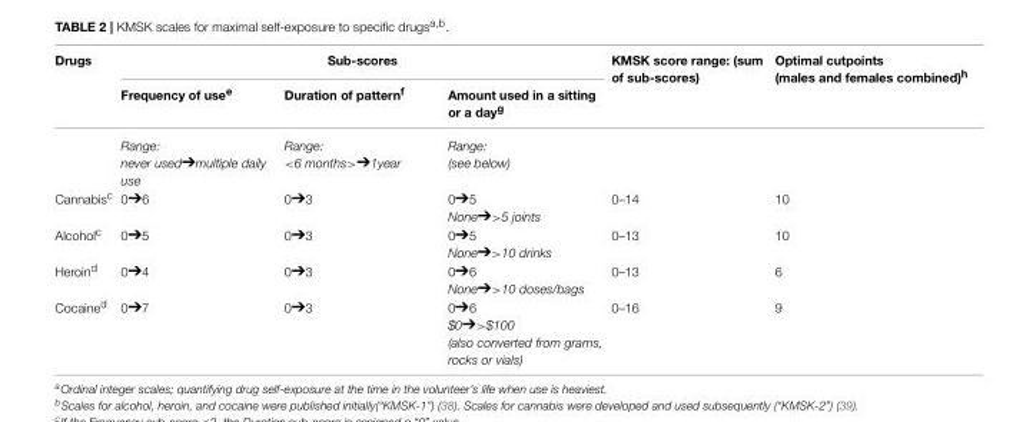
<table><thead><tr><td rowspan="2">Drugs</td><td colspan="3">Sub-scores</td><td rowspan="2">KMSK score range: (sum of sub-scores)</td><td rowspan="2">Optimal cutpoints (males and females combined)<sup>h</sup></td></tr><tr><td>Frequency of use<sup>e</sup></td><td>Duration of pattern<sup>f</sup></td><td>Amount used in a sitting or a day<sup>g</sup></td></tr></thead><tbody><tr><td></td><td>Range: never used�multiple daily use</td><td>Range: &lt;6 months&gt;�1year</td><td>Range: (see below)</td><td></td><td></td></tr><tr><td>Cannabis<sup>c</sup></td><td>0�6</td><td>0�3</td><td>0�5 None�&gt;5 joints</td><td>0–14</td><td>10</td></tr><tr><td>Alcohol<sup>c</sup></td><td>0�5</td><td>0�3</td><td>0�5 None�&gt;10 drinks</td><td>0–13</td><td>10</td></tr><tr><td>Heroin<sup>d</sup></td><td>0�4</td><td>0�3</td><td>0�6 None�&gt;10 doses/bags</td><td>0–13</td><td>6</td></tr><tr><td>Cocaine<sup>d</sup></td><td>0�7</td><td>0�3</td><td>0�6 $0�&gt;$100 (also converted from grams, rocks or vials)</td><td>0–16</td><td>9</td></tr></tbody></table>